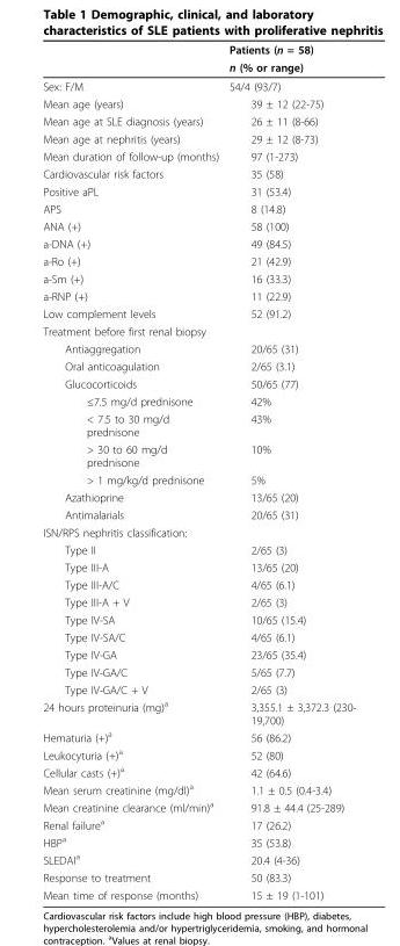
<table><thead><tr><td rowspan="2"></td><td rowspan="2">Patients (n = 58) n (% or range)</td></tr><tr></tr></thead><tbody><tr><td>Sex: F/M</td><td>54/4 (93/7)</td></tr><tr><td>Mean age (years)</td><td>39 ± 12 (22-75)</td></tr><tr><td>Mean age at SLE diagnosis (years)</td><td>26 ± 11 (8-66)</td></tr><tr><td>Mean age at nephritis (years)</td><td>29 ± 12 (8-73)</td></tr><tr><td>Mean duration of follow-up (months)</td><td>97 (1-273)</td></tr><tr><td>Cardiovascular risk factors</td><td>35 (58)</td></tr><tr><td>Positive aPL</td><td>31 (53.4)</td></tr><tr><td>APS</td><td>8 (14.8)</td></tr><tr><td>ANA (+)</td><td>58 (100)</td></tr><tr><td>a-DNA (+)</td><td>49 (84.5)</td></tr><tr><td>a-Ro (+)</td><td>21 (42.9)</td></tr><tr><td>a-Sm (+)</td><td>16 (33.3)</td></tr><tr><td>a-RNP (+)</td><td>11 (22.9)</td></tr><tr><td>Low complement levels</td><td>52 (91.2)</td></tr><tr><td colspan="2">Treatment before first renal biopsy</td></tr><tr><td>Antiaggregation</td><td>20/65 (31)</td></tr><tr><td>Oral anticoagulation</td><td>2/65 (3.1)</td></tr><tr><td>Glucocorticoids</td><td>50/65 (77)</td></tr><tr><td>≤7.5 mg/d prednisone</td><td>42%</td></tr><tr><td>&lt; 7.5 to 30 mg/d prednisone</td><td>43%</td></tr><tr><td>&gt; 30 to 60 mg/d prednisone</td><td>10%</td></tr><tr><td>&gt; 1 mg/kg/d prednisone</td><td>5%</td></tr><tr><td>Azathioprine</td><td>13/65 (20)</td></tr><tr><td>Antimalarials</td><td>20/65 (31)</td></tr><tr><td colspan="2">ISN/RPS nephritis classification:</td></tr><tr><td>Type II</td><td>2/65 (3)</td></tr><tr><td>Type III-A</td><td>13/65 (20)</td></tr><tr><td>Type III-A/C</td><td>4/65 (6.1)</td></tr><tr><td>Type III-A + V</td><td>2/65 (3)</td></tr><tr><td>Type IV-SA</td><td>10/65 (15.4)</td></tr><tr><td>Type IV-SA/C</td><td>4/65 (6.1)</td></tr><tr><td>Type IV-GA</td><td>23/65 (35.4)</td></tr><tr><td>Type IV-GA/C</td><td>5/65 (7.7)</td></tr><tr><td>Type IV-GA/C + V</td><td>2/65 (3)</td></tr><tr><td>24 hours proteinuria (mg)<sup>a</sup></td><td>3,355.1 ± 3,372.3 (230- 19,700)</td></tr><tr><td>Hematuria (+)<sup>a</sup></td><td>56 (86.2)</td></tr><tr><td>Leukocyturia (+)<sup>a</sup></td><td>52 (80)</td></tr><tr><td>Cellular casts (+)<sup>a</sup></td><td>42 (64.6)</td></tr><tr><td>Mean serum creatinine (mg/dl)<sup>a</sup></td><td>1.1 ± 0.5 (0.4-3.4)</td></tr><tr><td>Mean creatinine clearance (ml/min)<sup>a</sup></td><td>91.8 ± 44.4 (25-289)</td></tr><tr><td>Renal failure<sup>a</sup></td><td>17 (26.2)</td></tr><tr><td>HBP<sup>a</sup></td><td>35 (53.8)</td></tr><tr><td>SLEDAI<sup>a</sup></td><td>20.4 (4-36)</td></tr><tr><td>Response to treatment</td><td>50 (83.3)</td></tr><tr><td>Mean time of response (months)</td><td>15 ± 19 (1-101)</td></tr></tbody></table>